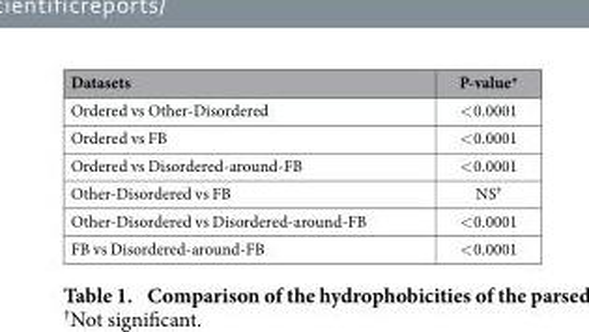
<table><thead><tr><td>Datasets</td><td>P-value*</td></tr></thead><tbody><tr><td>Ordered vs Other-Disordered</td><td>&lt; 0.0001</td></tr><tr><td>Ordered vs FB</td><td>&lt; 0.0001</td></tr><tr><td>Ordered vs Disordered-around-FB</td><td>&lt; 0.0001</td></tr><tr><td>Other-Disordered vs FB</td><td>NS†</td></tr><tr><td>Other-Disordered vs Disordered-around-FB</td><td>&lt; 0.0001</td></tr><tr><td>FB vs Disordered-around-FB</td><td>&lt; 0.0001</td></tr></tbody></table>